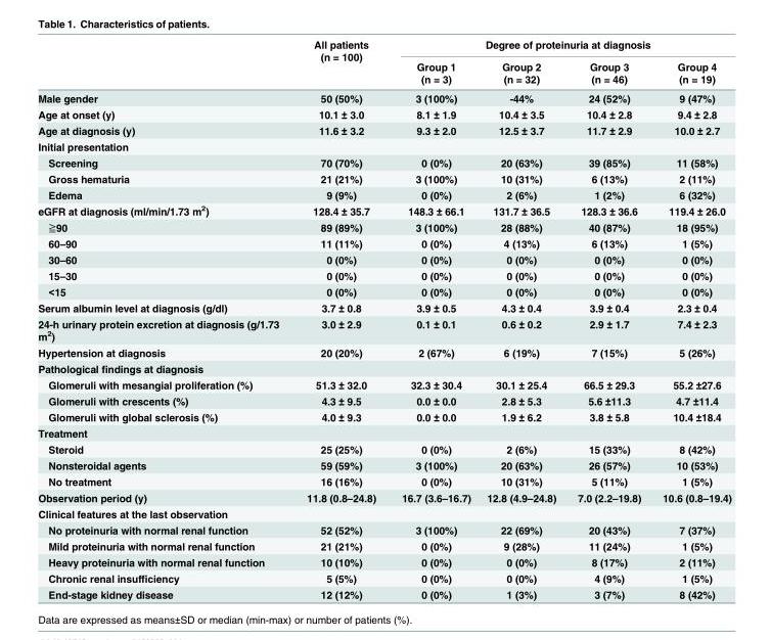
<table><thead><tr><td rowspan="2"></td><td rowspan="2">All patients (n = 100)</td><td colspan="4">Degree of proteinuria at diagnosis</td></tr><tr><td>Group 1 (n = 3)</td><td>Group 2 (n = 32)</td><td>Group 3 (n = 46)</td><td>Group 4 (n = 19)</td></tr></thead><tbody><tr><td>Male gender</td><td>50 (50%)</td><td>3 (100%)</td><td>-44%</td><td>24 (52%)</td><td>9 (47%)</td></tr><tr><td>Age at onset (y)</td><td>10.1 ± 3.0</td><td>8.1 ± 1.9</td><td>10.4 ± 3.5</td><td>10.4 ± 2.8</td><td>9.4 ± 2.8</td></tr><tr><td>Age at diagnosis (y)</td><td>11.6 ± 3.2</td><td>9.3 ± 2.0</td><td>12.5 ± 3.7</td><td>11.7 ± 2.9</td><td>10.0 ± 2.7</td></tr><tr><td colspan="6">Initial presentation</td></tr><tr><td>Screening</td><td>70 (70%)</td><td>0 (0%)</td><td>20 (63%)</td><td>39 (85%)</td><td>11 (58%)</td></tr><tr><td>Gross hematuria</td><td>21 (21%)</td><td>3 (100%)</td><td>10 (31%)</td><td>6 (13%)</td><td>2 (11%)</td></tr><tr><td>Edema</td><td>9 (9%)</td><td>0 (0%)</td><td>2 (6%)</td><td>1 (2%)</td><td>6 (32%)</td></tr><tr><td>eGFR at diagnosis (ml/min/1.73 m<sup>2</sup>)</td><td>128.4 ± 35.7</td><td>148.3 ± 66.1</td><td>131.7 ± 36.5</td><td>128.3 ± 36.6</td><td>119.4 ± 26.0</td></tr><tr><td>≧90</td><td>89 (89%)</td><td>3 (100%)</td><td>28 (88%)</td><td>40 (87%)</td><td>18 (95%)</td></tr><tr><td>60–90</td><td>11 (11%)</td><td>0 (0%)</td><td>4 (13%)</td><td>6 (13%)</td><td>1 (5%)</td></tr><tr><td>30–60</td><td>0 (0%)</td><td>0 (0%)</td><td>0 (0%)</td><td>0 (0%)</td><td>0 (0%)</td></tr><tr><td>15–30</td><td>0 (0%)</td><td>0 (0%)</td><td>0 (0%)</td><td>0 (0%)</td><td>0 (0%)</td></tr><tr><td>&lt;15</td><td>0 (0%)</td><td>0 (0%)</td><td>0 (0%)</td><td>0 (0%)</td><td>0 (0%)</td></tr><tr><td>Serum albumin level at diagnosis (g/dl)</td><td>3.7 ± 0.8</td><td>3.9 ± 0.5</td><td>4.3 ± 0.4</td><td>3.9 ± 0.4</td><td>2.3 ± 0.4</td></tr><tr><td>24-h urinary protein excretion at diagnosis (g/1.73 m<sup>2</sup>)</td><td>3.0 ± 2.9</td><td>0.1 ± 0.1</td><td>0.6 ± 0.2</td><td>2.9 ± 1.7</td><td>7.4 ± 2.3</td></tr><tr><td>Hypertension at diagnosis</td><td>20 (20%)</td><td>2 (67%)</td><td>6 (19%)</td><td>7 (15%)</td><td>5 (26%)</td></tr><tr><td colspan="6">Pathological findings at diagnosis</td></tr><tr><td>Glomeruli with mesangial proliferation (%)</td><td>51.3 ± 32.0</td><td>32.3 ± 30.4</td><td>30.1 ± 25.4</td><td>66.5 ± 29.3</td><td>55.2 ±27.6</td></tr><tr><td>Glomeruli with crescents (%)</td><td>4.3 ± 9.5</td><td>0.0 ± 0.0</td><td>2.8 ± 5.3</td><td>5.6 ±11.3</td><td>4.7 ±11.4</td></tr><tr><td>Glomeruli with global sclerosis (%)</td><td>4.0 ± 9.3</td><td>0.0 ± 0.0</td><td>1.9 ± 6.2</td><td>3.8 ± 5.8</td><td>10.4 ±18.4</td></tr><tr><td colspan="6">Treatment</td></tr><tr><td>Steroid</td><td>25 (25%)</td><td>0 (0%)</td><td>2 (6%)</td><td>15 (33%)</td><td>8 (42%)</td></tr><tr><td>Nonsteroidal agents</td><td>59 (59%)</td><td>3 (100%)</td><td>20 (63%)</td><td>26 (57%)</td><td>10 (53%)</td></tr><tr><td>No treatment</td><td>16 (16%)</td><td>0 (0%)</td><td>10 (31%)</td><td>5 (11%)</td><td>1 (5%)</td></tr><tr><td>Observation period (y)</td><td>11.8 (0.8–24.8)</td><td>16.7 (3.6–16.7)</td><td>12.8 (4.9–24.8)</td><td>7.0 (2.2–19.8)</td><td>10.6 (0.8–19.4)</td></tr><tr><td colspan="6">Clinical features at the last observation</td></tr><tr><td>No proteinuria with normal renal function</td><td>52 (52%)</td><td>3 (100%)</td><td>22 (69%)</td><td>20 (43%)</td><td>7 (37%)</td></tr><tr><td>Mild proteinuria with normal renal function</td><td>21 (21%)</td><td>0 (0%)</td><td>9 (28%)</td><td>11 (24%)</td><td>1 (5%)</td></tr><tr><td>Heavy proteinuria with normal renal function</td><td>10 (10%)</td><td>0 (0%)</td><td>0 (0%)</td><td>8 (17%)</td><td>2 (11%)</td></tr><tr><td>Chronic renal insufficiency</td><td>5 (5%)</td><td>0 (0%)</td><td>0 (0%)</td><td>4 (9%)</td><td>1 (5%)</td></tr><tr><td>End-stage kidney disease</td><td>12 (12%)</td><td>0 (0%)</td><td>1 (3%)</td><td>3 (7%)</td><td>8 (42%)</td></tr></tbody></table>